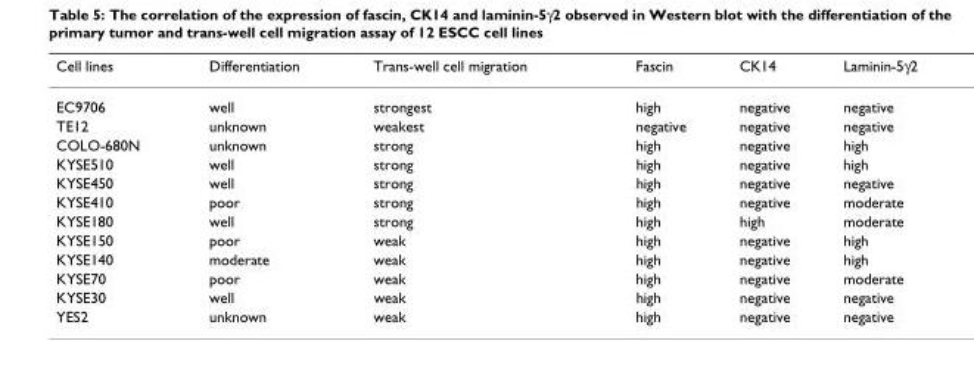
<table><thead><tr><td>Cell lines</td><td>Differentiation</td><td>Trans-well cell migration</td><td>Fascin</td><td>CK14</td><td>Laminin-5γ2</td></tr></thead><tbody><tr><td>EC9706</td><td>well</td><td>strongest</td><td>high</td><td>negative</td><td>negative</td></tr><tr><td>TE12</td><td>unknown</td><td>weakest</td><td>negative</td><td>negative</td><td>negative</td></tr><tr><td>COLO-680N</td><td>unknown</td><td>strong</td><td>high</td><td>negative</td><td>high</td></tr><tr><td>KYSE510</td><td>well</td><td>strong</td><td>high</td><td>negative</td><td>high</td></tr><tr><td>KYSE450</td><td>well</td><td>strong</td><td>high</td><td>negative</td><td>negative</td></tr><tr><td>KYSE410</td><td>poor</td><td>strong</td><td>high</td><td>negative</td><td>moderate</td></tr><tr><td>KYSE180</td><td>well</td><td>strong</td><td>high</td><td>high</td><td>moderate</td></tr><tr><td>KYSE150</td><td>poor</td><td>weak</td><td>high</td><td>negative</td><td>high</td></tr><tr><td>KYSE140</td><td>moderate</td><td>weak</td><td>high</td><td>negative</td><td>high</td></tr><tr><td>KYSE70</td><td>poor</td><td>weak</td><td>high</td><td>negative</td><td>moderate</td></tr><tr><td>KYSE30</td><td>well</td><td>weak</td><td>high</td><td>negative</td><td>negative</td></tr><tr><td>YES2</td><td>unknown</td><td>weak</td><td>high</td><td>negative</td><td>negative</td></tr></tbody></table>